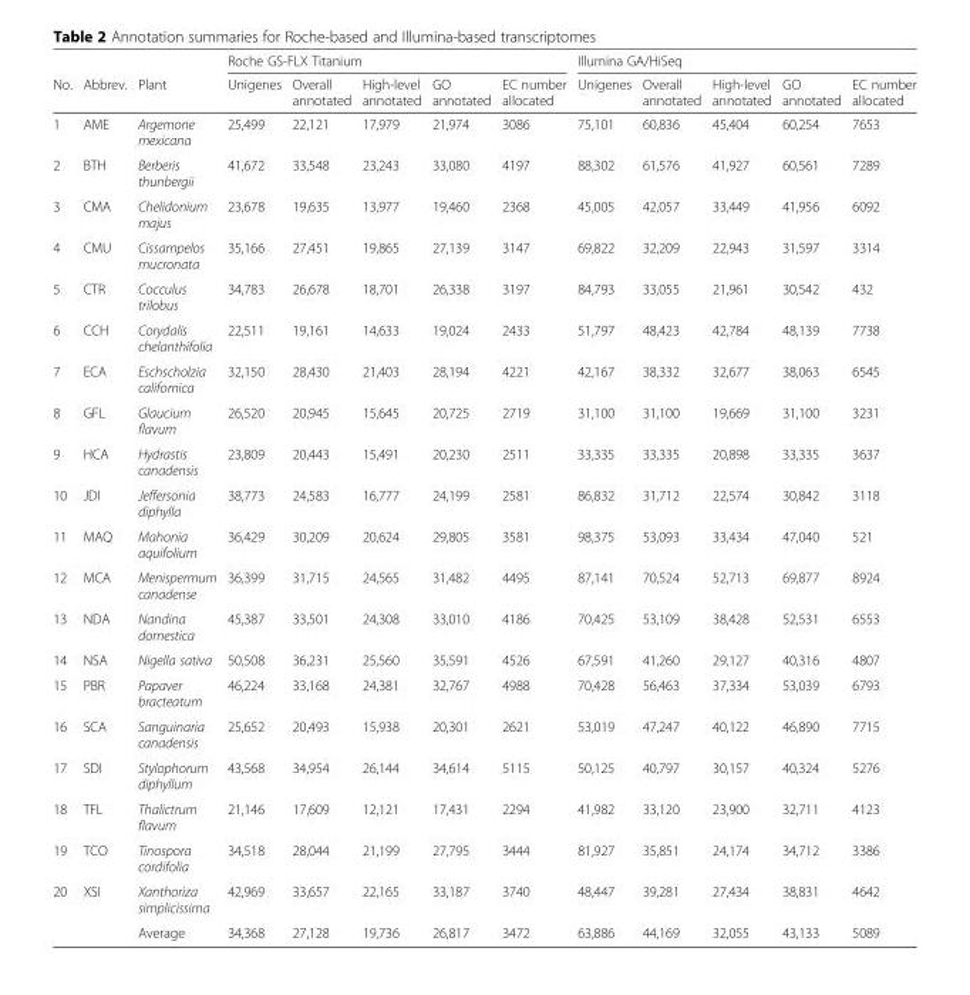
<table><thead><tr><td rowspan="2">No.</td><td rowspan="2">Abbrev.</td><td rowspan="2">Plant</td><td colspan="5">Roche GS-FLX Titanium</td><td colspan="5">Illumina GA/HiSeq</td></tr><tr><td>Unigenes</td><td>Overall annotated</td><td>High-level annotated</td><td>GO annotated</td><td>EC number allocated</td><td>Unigenes</td><td>Overall annotated</td><td>High-level annotated</td><td>GO annotated</td><td>EC number allocated</td></tr></thead><tbody><tr><td>1</td><td>AME</td><td>Argemone mexicana</td><td>25,499</td><td>22,121</td><td>17,979</td><td>21,974</td><td>3086</td><td>75,101</td><td>60,836</td><td>45,404</td><td>60,254</td><td>7653</td></tr><tr><td>2</td><td>BTH</td><td>Berberis thunbergii</td><td>41,672</td><td>33,548</td><td>23,243</td><td>33,080</td><td>4197</td><td>88,302</td><td>61,576</td><td>41,927</td><td>60,561</td><td>7289</td></tr><tr><td>3</td><td>CMA</td><td>Chelidonium majus</td><td>23,678</td><td>19,635</td><td>13,977</td><td>19,460</td><td>2368</td><td>45,005</td><td>42,057</td><td>33,449</td><td>41,956</td><td>6092</td></tr><tr><td>4</td><td>CMU</td><td>Cissampelos mucronata</td><td>35,166</td><td>27,451</td><td>19,865</td><td>27,139</td><td>3147</td><td>69,822</td><td>32,209</td><td>22,943</td><td>31,597</td><td>3314</td></tr><tr><td>5</td><td>CTR</td><td>Cocculus trilobus</td><td>34,783</td><td>26,678</td><td>18,701</td><td>26,338</td><td>3197</td><td>84,793</td><td>33,055</td><td>21,961</td><td>30,542</td><td>432</td></tr><tr><td>6</td><td>CCH</td><td>Corydalis chelanthifolia</td><td>22,511</td><td>19,161</td><td>14,633</td><td>19,024</td><td>2433</td><td>51,797</td><td>48,423</td><td>42,784</td><td>48,139</td><td>7738</td></tr><tr><td>7</td><td>ECA</td><td>Eschscholzia californica</td><td>32,150</td><td>28,430</td><td>21,403</td><td>28,194</td><td>4221</td><td>42,167</td><td>38,332</td><td>32,677</td><td>38,063</td><td>6545</td></tr><tr><td>8</td><td>GFL</td><td>Glaucium flavum</td><td>26,520</td><td>20,945</td><td>15,645</td><td>20,725</td><td>2719</td><td>31,100</td><td>31,100</td><td>19,669</td><td>31,100</td><td>3231</td></tr><tr><td>9</td><td>HCA</td><td>Hydrastis canadensis</td><td>23,809</td><td>20,443</td><td>15,491</td><td>20,230</td><td>2511</td><td>33,335</td><td>33,335</td><td>20,898</td><td>33,335</td><td>3637</td></tr><tr><td>10</td><td>JDI</td><td>Jeffersonia diphylla</td><td>38,773</td><td>24,583</td><td>16,777</td><td>24,199</td><td>2581</td><td>86,832</td><td>31,712</td><td>22,574</td><td>30,842</td><td>3118</td></tr><tr><td>11</td><td>MAQ</td><td>Mahonia aquifolium</td><td>36,429</td><td>30,209</td><td>20,624</td><td>29,805</td><td>3581</td><td>98,375</td><td>53,093</td><td>33,434</td><td>47,040</td><td>521</td></tr><tr><td>12</td><td>MCA</td><td>Menispermum canadense</td><td>36,399</td><td>31,715</td><td>24,565</td><td>31,482</td><td>4495</td><td>87,141</td><td>70,524</td><td>52,713</td><td>69,877</td><td>8924</td></tr><tr><td>13</td><td>NDA</td><td>Nandina domestica</td><td>45,387</td><td>33,501</td><td>24,308</td><td>33,010</td><td>4186</td><td>70,425</td><td>53,109</td><td>38,428</td><td>52,531</td><td>6553</td></tr><tr><td>14</td><td>NSA</td><td>Nigella sativa</td><td>50,508</td><td>36,231</td><td>25,560</td><td>35,591</td><td>4526</td><td>67,591</td><td>41,260</td><td>29,127</td><td>40,316</td><td>4807</td></tr><tr><td>15</td><td>PBR</td><td>Papaver bracteatum</td><td>46,224</td><td>33,168</td><td>24,381</td><td>32,767</td><td>4988</td><td>70,428</td><td>56,463</td><td>37,334</td><td>53,039</td><td>6793</td></tr><tr><td>16</td><td>SCA</td><td>Sanguinaria canadensis</td><td>25,652</td><td>20,493</td><td>15,938</td><td>20,301</td><td>2621</td><td>53,019</td><td>47,247</td><td>40,122</td><td>46,890</td><td>7715</td></tr><tr><td>17</td><td>SDI</td><td>Stylophorum diphyllum</td><td>43,568</td><td>34,954</td><td>26,144</td><td>34,614</td><td>5115</td><td>50,125</td><td>40,797</td><td>30,157</td><td>40,324</td><td>5276</td></tr><tr><td>18</td><td>TFL</td><td>Thalictrum flavum</td><td>21,146</td><td>17,609</td><td>12,121</td><td>17,431</td><td>2294</td><td>41,982</td><td>33,120</td><td>23,900</td><td>32,711</td><td>4123</td></tr><tr><td>19</td><td>TCO</td><td>Tinospora cordifolia</td><td>34,518</td><td>28,044</td><td>21,199</td><td>27,795</td><td>3444</td><td>81,927</td><td>35,851</td><td>24,174</td><td>34,712</td><td>3386</td></tr><tr><td rowspan="2">20</td><td>XSI</td><td>Xanthoriza simplicissima</td><td>42,969</td><td>33,657</td><td>22,165</td><td>33,187</td><td>3740</td><td>48,447</td><td>39,281</td><td>27,434</td><td>38,831</td><td>4642</td></tr><tr><td></td><td>Average</td><td>34,368</td><td>27,128</td><td>19,736</td><td>26,817</td><td>3472</td><td>63,886</td><td>44,169</td><td>32,055</td><td>43,133</td><td>5089</td></tr></tbody></table>